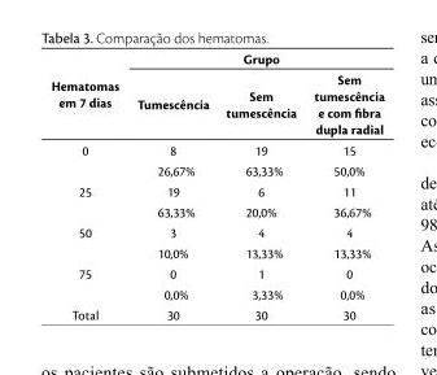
<table><thead><tr><td rowspan="2">Hematomas em 7 dias</td><td colspan="3">Grupo</td></tr><tr><td>Tumescência</td><td>Sem tumescência</td><td>Sem tumescência e com fibra dupla radial</td></tr></thead><tbody><tr><td rowspan="2">0</td><td>8</td><td>19</td><td>15</td></tr><tr><td>26,67%</td><td>63,33%</td><td>50,0%</td></tr><tr><td rowspan="2">25</td><td>19</td><td>6</td><td>11</td></tr><tr><td>63,33%</td><td>20,0%</td><td>36,67%</td></tr><tr><td rowspan="2">50</td><td>3</td><td>4</td><td>4</td></tr><tr><td>10,0%</td><td>13,33%</td><td>13,33%</td></tr><tr><td rowspan="2">75</td><td>0</td><td>1</td><td>0</td></tr><tr><td>0,0%</td><td>3,33%</td><td>0,0%</td></tr><tr><td>Total</td><td>30</td><td>30</td><td>30</td></tr></tbody></table>